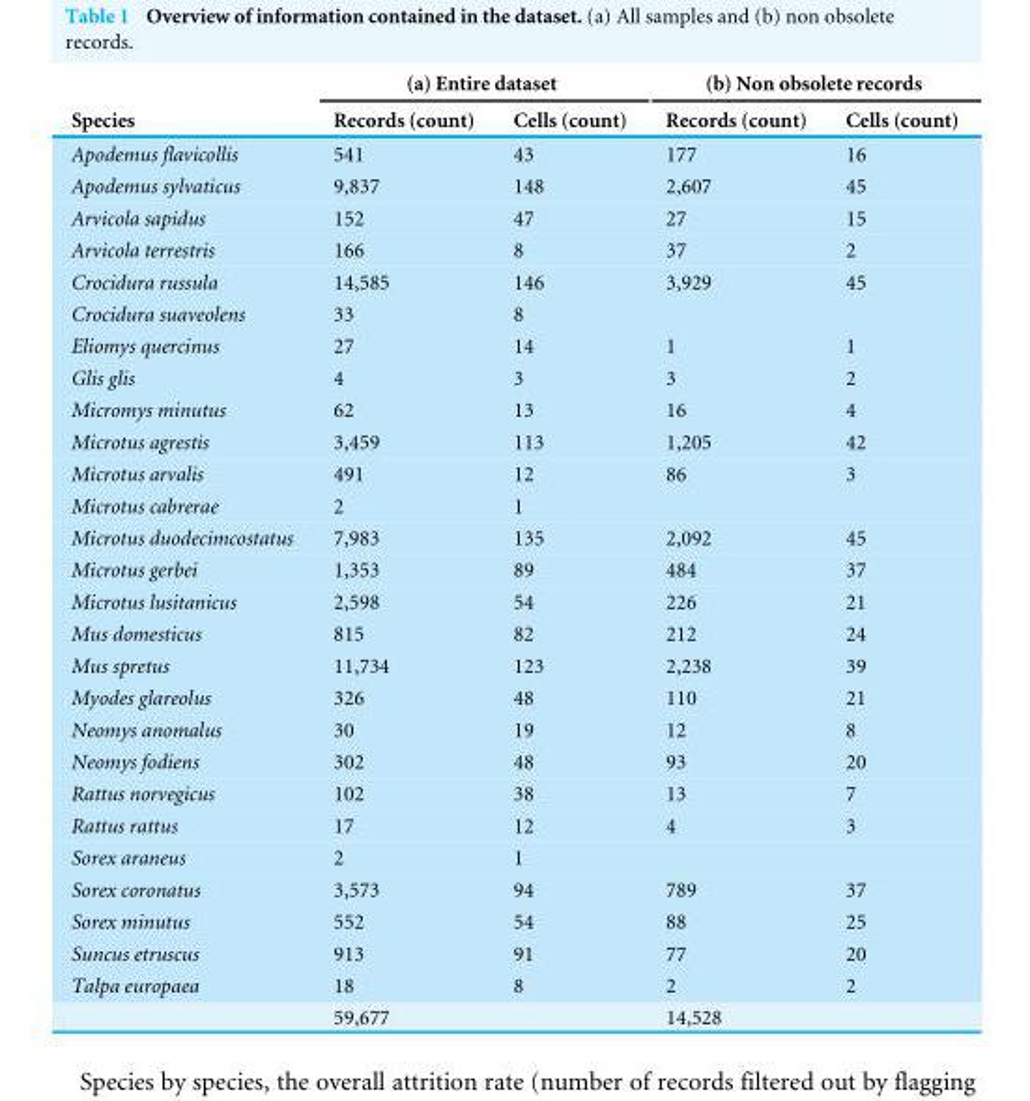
<table><thead><tr><td rowspan="2">Species</td><td colspan="2">(a) Entire dataset</td><td colspan="2">(b) Non obsolete records</td></tr><tr><td>Records (count)</td><td>Cells (count)</td><td>Records (count)</td><td>Cells (count)</td></tr></thead><tbody><tr><td>Apodemus flavicollis</td><td>541</td><td>43</td><td>177</td><td>16</td></tr><tr><td>Apodemus sylvaticus</td><td>9,837</td><td>148</td><td>2,607</td><td>45</td></tr><tr><td>Arvicola sapidus</td><td>152</td><td>47</td><td>27</td><td>15</td></tr><tr><td>Arvicola terrestris</td><td>166</td><td>8</td><td>37</td><td>2</td></tr><tr><td>Crocidura russula</td><td>14,585</td><td>146</td><td>3,929</td><td>45</td></tr><tr><td>Crocidura suaveolens</td><td>33</td><td>8</td><td></td><td></td></tr><tr><td>Eliomys quercinus</td><td>27</td><td>14</td><td>1</td><td>1</td></tr><tr><td>Glis glis</td><td>4</td><td>3</td><td>3</td><td>2</td></tr><tr><td>Micromys minutus</td><td>62</td><td>13</td><td>16</td><td>4</td></tr><tr><td>Microtus agrestis</td><td>3,459</td><td>113</td><td>1,205</td><td>42</td></tr><tr><td>Microtus arvalis</td><td>491</td><td>12</td><td>86</td><td>3</td></tr><tr><td>Microtus cabrerae</td><td>2</td><td>1</td><td></td><td></td></tr><tr><td>Microtus duodecimcostatus</td><td>7,983</td><td>135</td><td>2,092</td><td>45</td></tr><tr><td>Microtus gerbei</td><td>1,353</td><td>89</td><td>484</td><td>37</td></tr><tr><td>Microtus lusitanicus</td><td>2,598</td><td>54</td><td>226</td><td>21</td></tr><tr><td>Mus domesticus</td><td>815</td><td>82</td><td>212</td><td>24</td></tr><tr><td>Mus spretus</td><td>11,734</td><td>123</td><td>2,238</td><td>39</td></tr><tr><td>Myodes glareolus</td><td>326</td><td>48</td><td>110</td><td>21</td></tr><tr><td>Neomys anomalus</td><td>30</td><td>19</td><td>12</td><td>8</td></tr><tr><td>Neomys fodiens</td><td>302</td><td>48</td><td>93</td><td>20</td></tr><tr><td>Rattus norvegicus</td><td>102</td><td>38</td><td>13</td><td>7</td></tr><tr><td>Rattus rattus</td><td>17</td><td>12</td><td>4</td><td>3</td></tr><tr><td>Sorex araneus</td><td>2</td><td>1</td><td></td><td></td></tr><tr><td>Sorex coronatus</td><td>3,573</td><td>94</td><td>789</td><td>37</td></tr><tr><td>Sorex minutus</td><td>552</td><td>54</td><td>88</td><td>25</td></tr><tr><td>Suncus etruscus</td><td>913</td><td>91</td><td>77</td><td>20</td></tr><tr><td rowspan="2">Talpa europaea</td><td>18</td><td>8</td><td>2</td><td>2</td></tr><tr><td>59,677</td><td></td><td>14,528</td><td></td></tr></tbody></table>